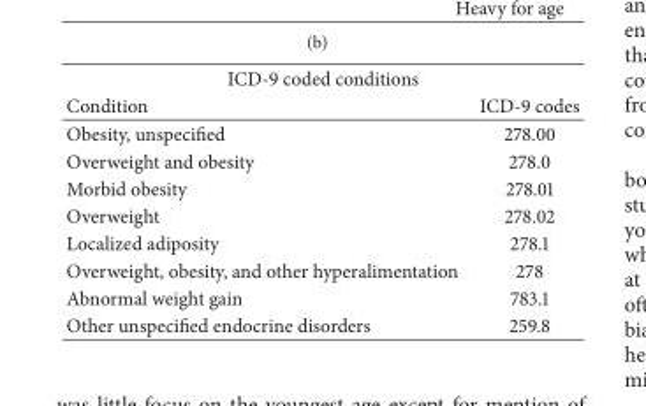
<table><thead><tr><td colspan="2">ICD-9 coded conditions</td></tr><tr><td>Condition</td><td>ICD-9 codes</td></tr></thead><tbody><tr><td>Obesity, unspecified</td><td>278.00</td></tr><tr><td>Overweight and obesity</td><td>278.0</td></tr><tr><td>Morbid obesity</td><td>278.01</td></tr><tr><td>Overweight</td><td>278.02</td></tr><tr><td>Localized adiposity</td><td>278.1</td></tr><tr><td>Overweight, obesity, and other hyperalimentation</td><td>278</td></tr><tr><td>Abnormal weight gain</td><td>783.1</td></tr><tr><td>Other unspecified endocrine disorders</td><td>259.8</td></tr></tbody></table>